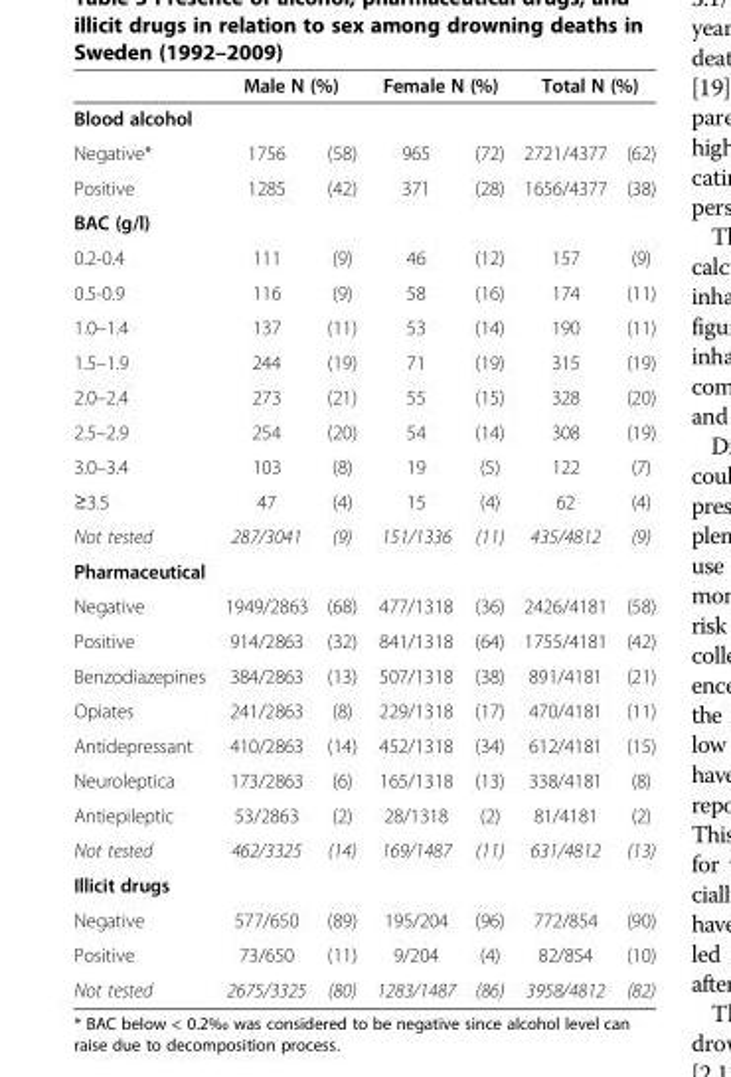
<table><thead><tr><td rowspan="2">Blood alcohol</td><td colspan="2">Male N (%)</td><td colspan="2">Female N (%)</td><td colspan="2">Total N (%)</td></tr><tr><td></td><td></td><td></td><td></td><td></td><td></td></tr></thead><tbody><tr><td>Negative*</td><td>1756</td><td>(58)</td><td>965</td><td>(72)</td><td>2721/4377</td><td>(62)</td></tr><tr><td>Positive</td><td>1285</td><td>(42)</td><td>371</td><td>(28)</td><td>1656/4377</td><td>(38)</td></tr><tr><td colspan="7">BAC (g/l)</td></tr><tr><td>0.2-0.4</td><td>111</td><td>(9)</td><td>46</td><td>(12)</td><td>157</td><td>(9)</td></tr><tr><td>0.5-0.9</td><td>116</td><td>(9)</td><td>58</td><td>(16)</td><td>174</td><td>(11)</td></tr><tr><td>1.0–1.4</td><td>137</td><td>(11)</td><td>53</td><td>(14)</td><td>190</td><td>(11)</td></tr><tr><td>1.5–1.9</td><td>244</td><td>(19)</td><td>71</td><td>(19)</td><td>315</td><td>(19)</td></tr><tr><td>2.0–2.4</td><td>273</td><td>(21)</td><td>55</td><td>(15)</td><td>328</td><td>(20)</td></tr><tr><td>2.5–2.9</td><td>254</td><td>(20)</td><td>54</td><td>(14)</td><td>308</td><td>(19)</td></tr><tr><td>3.0–3.4</td><td>103</td><td>(8)</td><td>19</td><td>(5)</td><td>122</td><td>(7)</td></tr><tr><td>≥3.5</td><td>47</td><td>(4)</td><td>15</td><td>(4)</td><td>62</td><td>(4)</td></tr><tr><td>Not tested</td><td>287/3041</td><td>(9)</td><td>151/1336</td><td>(11)</td><td>435/4812</td><td>(9)</td></tr><tr><td colspan="7">Pharmaceutical</td></tr><tr><td>Negative</td><td>1949/2863</td><td>(68)</td><td>477/1318</td><td>(36)</td><td>2426/4181</td><td>(58)</td></tr><tr><td>Positive</td><td>914/2863</td><td>(32)</td><td>841/1318</td><td>(64)</td><td>1755/4181</td><td>(42)</td></tr><tr><td>Benzodiazepines</td><td>384/2863</td><td>(13)</td><td>507/1318</td><td>(38)</td><td>891/4181</td><td>(21)</td></tr><tr><td>Opiates</td><td>241/2863</td><td>(8)</td><td>229/1318</td><td>(17)</td><td>470/4181</td><td>(11)</td></tr><tr><td>Antidepressant</td><td>410/2863</td><td>(14)</td><td>452/1318</td><td>(34)</td><td>612/4181</td><td>(15)</td></tr><tr><td>Neuroleptica</td><td>173/2863</td><td>(6)</td><td>165/1318</td><td>(13)</td><td>338/4181</td><td>(8)</td></tr><tr><td>Antiepileptic</td><td>53/2863</td><td>(2)</td><td>28/1318</td><td>(2)</td><td>81/4181</td><td>(2)</td></tr><tr><td>Not tested</td><td>462/3325</td><td>(14)</td><td>169/1487</td><td>(11)</td><td>631/4812</td><td>(13)</td></tr><tr><td colspan="7">Illicit drugs</td></tr><tr><td>Negative</td><td>577/650</td><td>(89)</td><td>195/204</td><td>(96)</td><td>772/854</td><td>(90)</td></tr><tr><td>Positive</td><td>73/650</td><td>(11)</td><td>9/204</td><td>(4)</td><td>82/854</td><td>(10)</td></tr><tr><td>Not tested</td><td>2675/3325</td><td>(80)</td><td>1283/1487</td><td>(86)</td><td>3958/4812</td><td>(82)</td></tr></tbody></table>